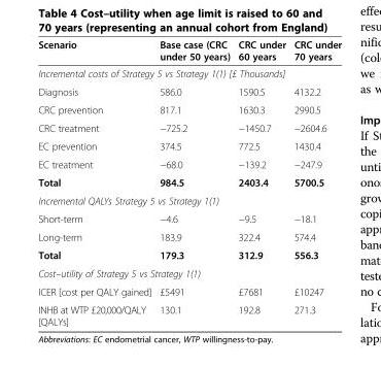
<table><thead><tr><td>Scenario</td><td>Base case (CRC under 50 years)</td><td>CRC under 60 years</td><td>CRC under 70 years</td></tr></thead><tbody><tr><td colspan="4">Incremental costs of Strategy 5 vs Strategy 1(1) [£ Thousands]</td></tr><tr><td>Diagnosis</td><td>586.0</td><td>1590.5</td><td>4132.2</td></tr><tr><td>CRC prevention</td><td>817.1</td><td>1630.3</td><td>2990.5</td></tr><tr><td>CRC treatment</td><td>−725.2</td><td>−1450.7</td><td>−2604.6</td></tr><tr><td>EC prevention</td><td>374.5</td><td>772.5</td><td>1430.4</td></tr><tr><td>EC treatment</td><td>−68.0</td><td>−139.2</td><td>−247.9</td></tr><tr><td>Total</td><td>984.5</td><td>2403.4</td><td>5700.5</td></tr><tr><td colspan="4">Incremental QALYs Strategy 5 vs Strategy 1(1)</td></tr><tr><td>Short-term</td><td>−4.6</td><td>−9.5</td><td>−18.1</td></tr><tr><td>Long-term</td><td>183.9</td><td>322.4</td><td>574.4</td></tr><tr><td>Total</td><td>179.3</td><td>312.9</td><td>556.3</td></tr><tr><td colspan="4">Cost–utility of Strategy 5 vs Strategy 1(1)</td></tr><tr><td>ICER [cost per QALY gained]</td><td>£5491</td><td>£7681</td><td>£10247</td></tr><tr><td>INHB at WTP £20,000/QALY [QALYs]</td><td>130.1</td><td>192.8</td><td>271.3</td></tr></tbody></table>